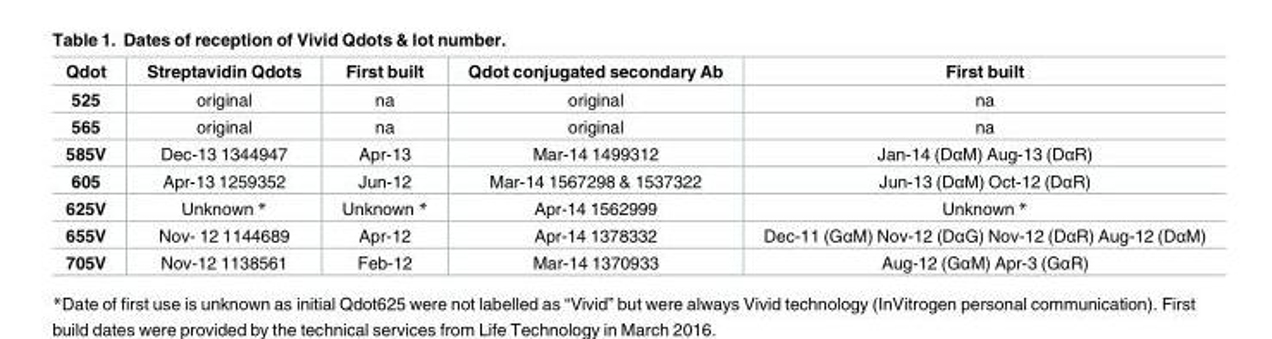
<table><thead><tr><td>Qdot</td><td>Streptavidin Qdots</td><td>First built</td><td>Qdot conjugated secondary Ab</td><td>First built</td></tr></thead><tbody><tr><td>525</td><td>original</td><td>na</td><td>original</td><td>na</td></tr><tr><td>565</td><td>original</td><td>na</td><td>original</td><td>na</td></tr><tr><td>585V</td><td>Dec-13 1344947</td><td>Apr-13</td><td>Mar-14 1499312</td><td>Jan-14 (DαM) Aug-13 (DαR)</td></tr><tr><td>605</td><td>Apr-13 1259352</td><td>Jun-12</td><td>Mar-14 1567298 &amp; 1537322</td><td>Jun-13 (DαM) Oct-12 (DαR)</td></tr><tr><td>625V</td><td>Unknown *</td><td>Unknown *</td><td>Apr-14 1562999</td><td>Unknown *</td></tr><tr><td>655V</td><td>Nov- 12 1144689</td><td>Apr-12</td><td>Apr-14 1378332</td><td>Dec-11 (GαM) Nov-12 (DαG) Nov-12 (DαR) Aug-12 (DαM)</td></tr><tr><td>705V</td><td>Nov-12 1138561</td><td>Feb-12</td><td>Mar-14 1370933</td><td>Aug-12 (GαM) Apr-3 (GαR)</td></tr></tbody></table>